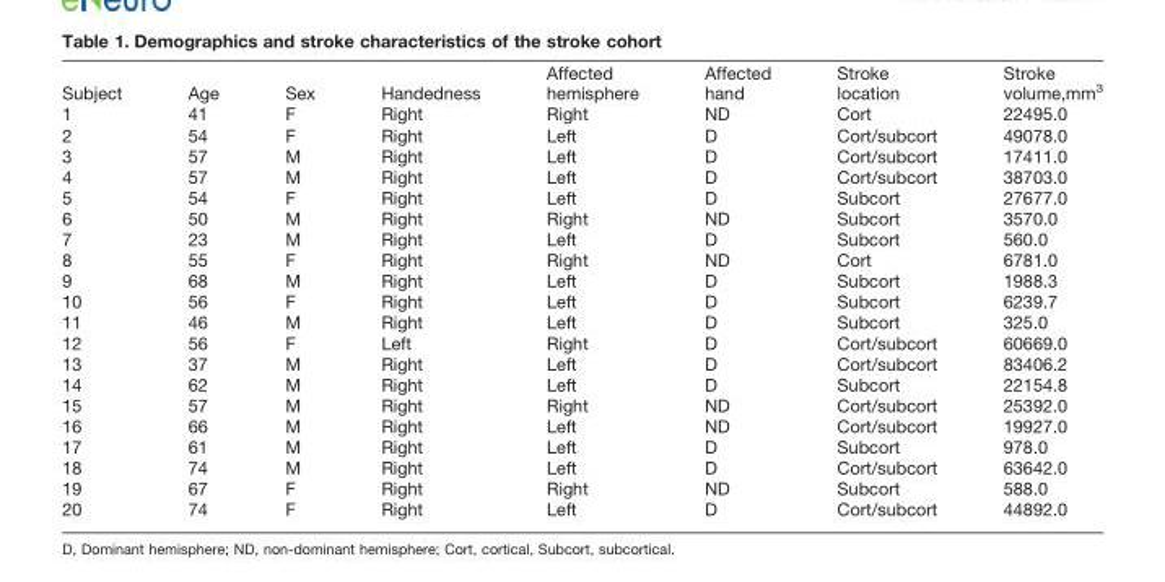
<table><thead><tr><td>Subject</td><td>Age</td><td>Sex</td><td>Handedness</td><td>Affected hemisphere</td><td>Affected hand</td><td>Stroke location</td><td>Stroke volume,mm<sup>3</sup></td></tr></thead><tbody><tr><td>1</td><td>41</td><td>F</td><td>Right</td><td>Right</td><td>ND</td><td>Cort</td><td>22495.0</td></tr><tr><td>2</td><td>54</td><td>F</td><td>Right</td><td>Left</td><td>D</td><td>Cort/subcort</td><td>49078.0</td></tr><tr><td>3</td><td>57</td><td>M</td><td>Right</td><td>Left</td><td>D</td><td>Cort/subcort</td><td>17411.0</td></tr><tr><td>4</td><td>57</td><td>M</td><td>Right</td><td>Left</td><td>D</td><td>Cort/subcort</td><td>38703.0</td></tr><tr><td>5</td><td>54</td><td>F</td><td>Right</td><td>Left</td><td>D</td><td>Subcort</td><td>27677.0</td></tr><tr><td>6</td><td>50</td><td>M</td><td>Right</td><td>Right</td><td>ND</td><td>Subcort</td><td>3570.0</td></tr><tr><td>7</td><td>23</td><td>M</td><td>Right</td><td>Left</td><td>D</td><td>Subcort</td><td>560.0</td></tr><tr><td>8</td><td>55</td><td>F</td><td>Right</td><td>Right</td><td>ND</td><td>Cort</td><td>6781.0</td></tr><tr><td>9</td><td>68</td><td>M</td><td>Right</td><td>Left</td><td>D</td><td>Subcort</td><td>1988.3</td></tr><tr><td>10</td><td>56</td><td>F</td><td>Right</td><td>Left</td><td>D</td><td>Subcort</td><td>6239.7</td></tr><tr><td>11</td><td>46</td><td>M</td><td>Right</td><td>Left</td><td>D</td><td>Subcort</td><td>325.0</td></tr><tr><td>12</td><td>56</td><td>F</td><td>Left</td><td>Right</td><td>D</td><td>Cort/subcort</td><td>60669.0</td></tr><tr><td>13</td><td>37</td><td>M</td><td>Right</td><td>Left</td><td>D</td><td>Cort/subcort</td><td>83406.2</td></tr><tr><td>14</td><td>62</td><td>M</td><td>Right</td><td>Left</td><td>D</td><td>Subcort</td><td>22154.8</td></tr><tr><td>15</td><td>57</td><td>M</td><td>Right</td><td>Right</td><td>ND</td><td>Cort/subcort</td><td>25392.0</td></tr><tr><td>16</td><td>66</td><td>M</td><td>Right</td><td>Left</td><td>ND</td><td>Cort/subcort</td><td>19927.0</td></tr><tr><td>17</td><td>61</td><td>M</td><td>Right</td><td>Left</td><td>D</td><td>Subcort</td><td>978.0</td></tr><tr><td>18</td><td>74</td><td>M</td><td>Right</td><td>Left</td><td>D</td><td>Cort/subcort</td><td>63642.0</td></tr><tr><td>19</td><td>67</td><td>F</td><td>Right</td><td>Right</td><td>ND</td><td>Subcort</td><td>588.0</td></tr><tr><td>20</td><td>74</td><td>F</td><td>Right</td><td>Left</td><td>D</td><td>Cort/subcort</td><td>44892.0</td></tr></tbody></table>